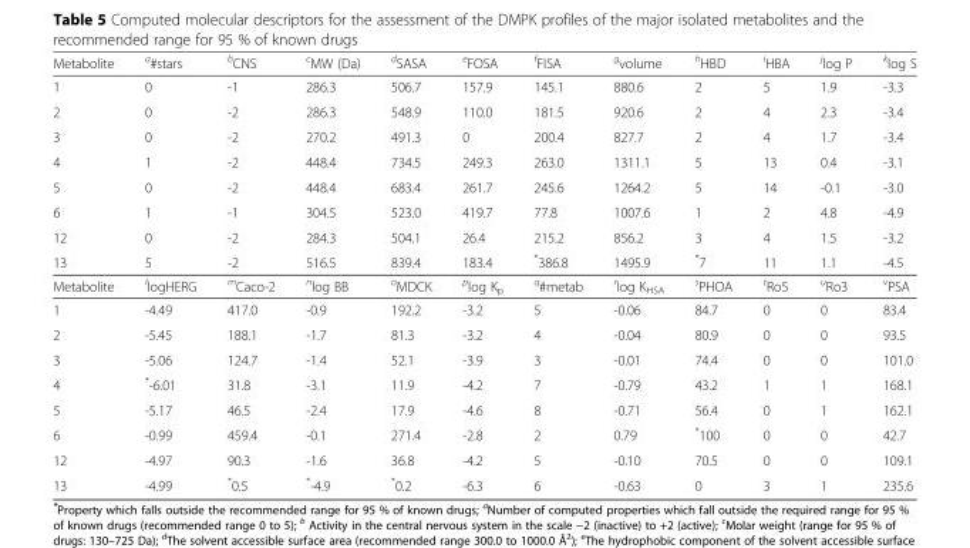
<table><tbody><tr><td>Metabolite</td><td><sup>a</sup>#stars</td><td><sup>b</sup>CNS</td><td><sup>c</sup>MW (Da)</td><td><sup>d</sup>SASA</td><td><sup>e</sup>FOSA</td><td><sup>f</sup>FISA</td><td><sup>g</sup>volume</td><td><sup>h</sup>HBD</td><td><sup>i</sup>HBA</td><td><sup>j</sup>log P</td><td><sup>k</sup>log S</td></tr><tr><td>1</td><td>0</td><td>-1</td><td>286.3</td><td>506.7</td><td>157.9</td><td>145.1</td><td>880.6</td><td>2</td><td>5</td><td>1.9</td><td>-3.3</td></tr><tr><td>2</td><td>0</td><td>-2</td><td>286.3</td><td>548.9</td><td>110.0</td><td>181.5</td><td>920.6</td><td>2</td><td>4</td><td>2.3</td><td>-3.4</td></tr><tr><td>3</td><td>0</td><td>-2</td><td>270.2</td><td>491.3</td><td>0</td><td>200.4</td><td>827.7</td><td>2</td><td>4</td><td>1.7</td><td>-3.4</td></tr><tr><td>4</td><td>1</td><td>-2</td><td>448.4</td><td>734.5</td><td>249.3</td><td>263.0</td><td>1311.1</td><td>5</td><td>13</td><td>0.4</td><td>-3.1</td></tr><tr><td>5</td><td>0</td><td>-2</td><td>448.4</td><td>683.4</td><td>261.7</td><td>245.6</td><td>1264.2</td><td>5</td><td>14</td><td>-0.1</td><td>-3.0</td></tr><tr><td>6</td><td>1</td><td>-1</td><td>304.5</td><td>523.0</td><td>419.7</td><td>77.8</td><td>1007.6</td><td>1</td><td>2</td><td>4.8</td><td>-4.9</td></tr><tr><td>12</td><td>0</td><td>-2</td><td>284.3</td><td>504.1</td><td>26.4</td><td>215.2</td><td>856.2</td><td>3</td><td>4</td><td>1.5</td><td>-3.2</td></tr><tr><td>13</td><td>5</td><td>-2</td><td>516.5</td><td>839.4</td><td>183.4</td><td>*386.8</td><td>1495.9</td><td>*7</td><td>11</td><td>1.1</td><td>-4.5</td></tr><tr><td>Metabolite</td><td><sup>l</sup>logHERG</td><td><sup>m</sup>Caco-2</td><td><sup>n</sup>log BB</td><td><sup>o</sup>MDCK</td><td><sup>p</sup>log K<sub>p</sub></td><td><sup>q</sup>#metab</td><td><sup>r</sup>log K<sub>HSA</sub></td><td><sup>s</sup>PHOA</td><td><sup>t</sup>Ro5</td><td><sup>u</sup>Ro3</td><td><sup>v</sup>PSA</td></tr><tr><td>1</td><td>-4.49</td><td>417.0</td><td>-0.9</td><td>192.2</td><td>-3.2</td><td>5</td><td>-0.06</td><td>84.7</td><td>0</td><td>0</td><td>83.4</td></tr><tr><td>2</td><td>-5.45</td><td>188.1</td><td>-1.7</td><td>81.3</td><td>-3.2</td><td>4</td><td>-0.04</td><td>80.9</td><td>0</td><td>0</td><td>93.5</td></tr><tr><td>3</td><td>-5.06</td><td>124.7</td><td>-1.4</td><td>52.1</td><td>-3.9</td><td>3</td><td>-0.01</td><td>74.4</td><td>0</td><td>0</td><td>101.0</td></tr><tr><td>4</td><td>*-6.01</td><td>31.8</td><td>-3.1</td><td>11.9</td><td>-4.2</td><td>7</td><td>-0.79</td><td>43.2</td><td>1</td><td>1</td><td>168.1</td></tr><tr><td>5</td><td>-5.17</td><td>46.5</td><td>-2.4</td><td>17.9</td><td>-4.6</td><td>8</td><td>-0.71</td><td>56.4</td><td>0</td><td>1</td><td>162.1</td></tr><tr><td>6</td><td>-0.99</td><td>459.4</td><td>-0.1</td><td>271.4</td><td>-2.8</td><td>2</td><td>0.79</td><td>*100</td><td>0</td><td>0</td><td>42.7</td></tr><tr><td>12</td><td>-4.97</td><td>90.3</td><td>-1.6</td><td>36.8</td><td>-4.2</td><td>5</td><td>-0.10</td><td>70.5</td><td>0</td><td>0</td><td>109.1</td></tr><tr><td>13</td><td>-4.99</td><td>*0.5</td><td>*-4.9</td><td>*0.2</td><td>-6.3</td><td>6</td><td>-0.63</td><td>0</td><td>3</td><td>1</td><td>235.6</td></tr></tbody></table>